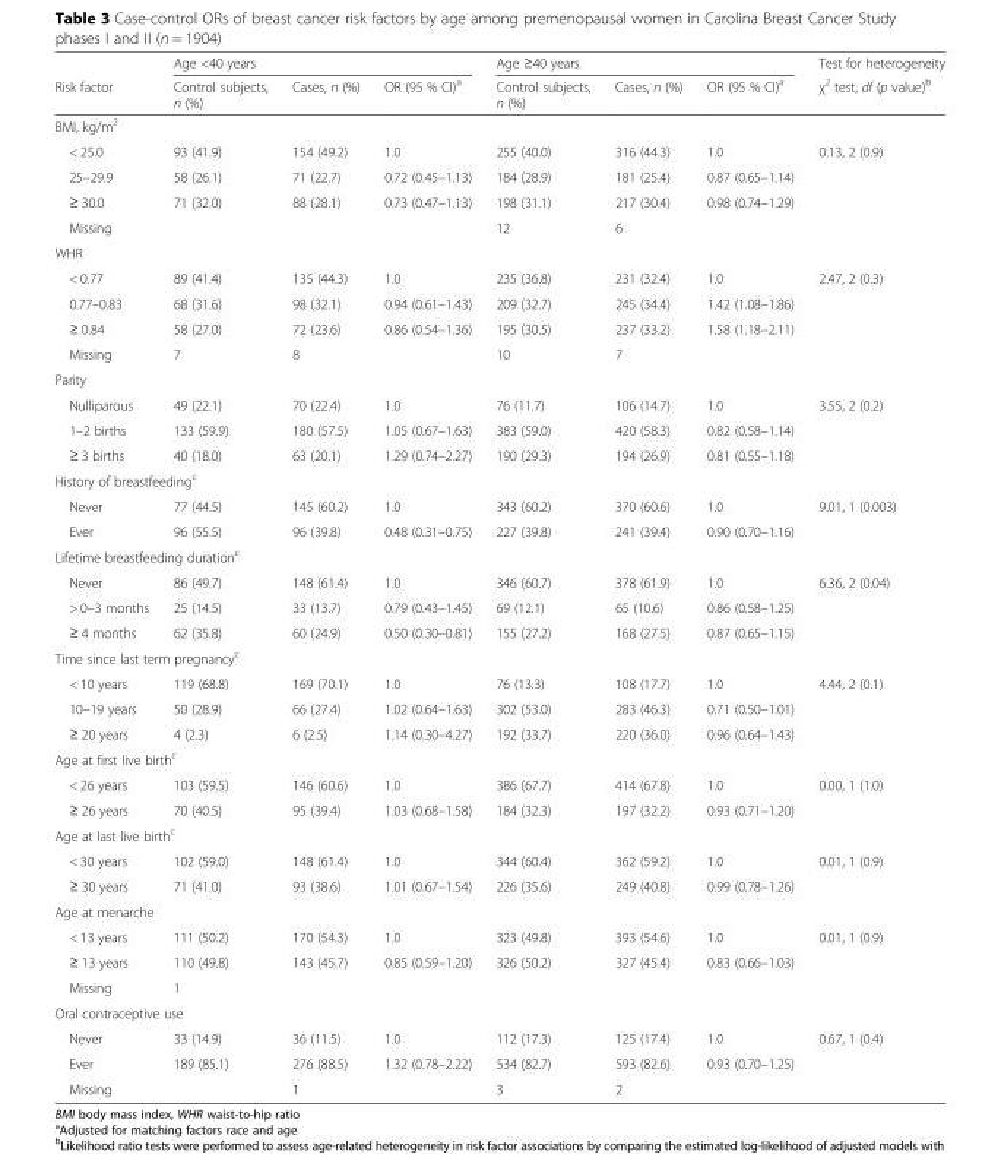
<table><thead><tr><td rowspan="2">Risk factor</td><td colspan="3">Age &lt;40 years</td><td colspan="3">Age ≥40 years</td><td rowspan="2">Test for heterogeneity χ<sup>2</sup> test, df (p value)<sup>b</sup></td></tr><tr><td>Control subjects, n (%)</td><td>Cases, n (%)</td><td>OR (95 % CI)<sup>a</sup></td><td>Control subjects, n (%)</td><td>Cases, n (%)</td><td>OR (95 % CI)<sup>a</sup></td></tr></thead><tbody><tr><td colspan="8">BMI, kg/m<sup>2</sup></td></tr><tr><td>&lt; 25.0</td><td>93 (41.9)</td><td>154 (49.2)</td><td>1.0</td><td>255 (40.0)</td><td>316 (44.3)</td><td>1.0</td><td>0.13, 2 (0.9)</td></tr><tr><td>25–29.9</td><td>58 (26.1)</td><td>71 (22.7)</td><td>0.72 (0.45–1.13)</td><td>184 (28.9)</td><td>181 (25.4)</td><td>0.87 (0.65–1.14)</td><td></td></tr><tr><td>≥ 30.0</td><td>71 (32.0)</td><td>88 (28.1)</td><td>0.73 (0.47–1.13)</td><td>198 (31.1)</td><td>217 (30.4)</td><td>0.98 (0.74–1.29)</td><td></td></tr><tr><td>Missing</td><td></td><td></td><td></td><td>12</td><td>6</td><td></td><td></td></tr><tr><td colspan="8">WHR</td></tr><tr><td>&lt; 0.77</td><td>89 (41.4)</td><td>135 (44.3)</td><td>1.0</td><td>235 (36.8)</td><td>231 (32.4)</td><td>1.0</td><td>2.47, 2 (0.3)</td></tr><tr><td>0.77–0.83</td><td>68 (31.6)</td><td>98 (32.1)</td><td>0.94 (0.61–1.43)</td><td>209 (32.7)</td><td>245 (34.4)</td><td>1.42 (1.08–1.86)</td><td></td></tr><tr><td>≥ 0.84</td><td>58 (27.0)</td><td>72 (23.6)</td><td>0.86 (0.54–1.36)</td><td>195 (30.5)</td><td>237 (33.2)</td><td>1.58 (1.18–2.11)</td><td></td></tr><tr><td>Missing</td><td>7</td><td>8</td><td></td><td>10</td><td>7</td><td></td><td></td></tr><tr><td colspan="8">Parity</td></tr><tr><td>Nulliparous</td><td>49 (22.1)</td><td>70 (22.4)</td><td>1.0</td><td>76 (11.7)</td><td>106 (14.7)</td><td>1.0</td><td>3.55, 2 (0.2)</td></tr><tr><td>1–2 births</td><td>133 (59.9)</td><td>180 (57.5)</td><td>1.05 (0.67–1.63)</td><td>383 (59.0)</td><td>420 (58.3)</td><td>0.82 (0.58–1.14)</td><td></td></tr><tr><td>≥ 3 births</td><td>40 (18.0)</td><td>63 (20.1)</td><td>1.29 (0.74–2.27)</td><td>190 (29.3)</td><td>194 (26.9)</td><td>0.81 (0.55–1.18)</td><td></td></tr><tr><td colspan="8">History of breastfeeding<sup>c</sup></td></tr><tr><td>Never</td><td>77 (44.5)</td><td>145 (60.2)</td><td>1.0</td><td>343 (60.2)</td><td>370 (60.6)</td><td>1.0</td><td>9.01, 1 (0.003)</td></tr><tr><td>Ever</td><td>96 (55.5)</td><td>96 (39.8)</td><td>0.48 (0.31–0.75)</td><td>227 (39.8)</td><td>241 (39.4)</td><td>0.90 (0.70–1.16)</td><td></td></tr><tr><td colspan="8">Lifetime breastfeeding duration<sup>c</sup></td></tr><tr><td>Never</td><td>86 (49.7)</td><td>148 (61.4)</td><td>1.0</td><td>346 (60.7)</td><td>378 (61.9)</td><td>1.0</td><td>6.36, 2 (0.04)</td></tr><tr><td>&gt; 0–3 months</td><td>25 (14.5)</td><td>33 (13.7)</td><td>0.79 (0.43–1.45)</td><td>69 (12.1)</td><td>65 (10.6)</td><td>0.86 (0.58–1.25)</td><td></td></tr><tr><td>≥ 4 months</td><td>62 (35.8)</td><td>60 (24.9)</td><td>0.50 (0.30–0.81)</td><td>155 (27.2)</td><td>168 (27.5)</td><td>0.87 (0.65–1.15)</td><td></td></tr><tr><td colspan="8">Time since last term pregnancy<sup>c</sup></td></tr><tr><td>&lt; 10 years</td><td>119 (68.8)</td><td>169 (70.1)</td><td>1.0</td><td>76 (13.3)</td><td>108 (17.7)</td><td>1.0</td><td>4.44, 2 (0.1)</td></tr><tr><td>10–19 years</td><td>50 (28.9)</td><td>66 (27.4)</td><td>1.02 (0.64–1.63)</td><td>302 (53.0)</td><td>283 (46.3)</td><td>0.71 (0.50–1.01)</td><td></td></tr><tr><td>≥ 20 years</td><td>4 (2.3)</td><td>6 (2.5)</td><td>1.14 (0.30–4.27)</td><td>192 (33.7)</td><td>220 (36.0)</td><td>0.96 (0.64–1.43)</td><td></td></tr><tr><td colspan="8">Age at first live birth<sup>c</sup></td></tr><tr><td>&lt; 26 years</td><td>103 (59.5)</td><td>146 (60.6)</td><td>1.0</td><td>386 (67.7)</td><td>414 (67.8)</td><td>1.0</td><td>0.00, 1 (1.0)</td></tr><tr><td>≥ 26 years</td><td>70 (40.5)</td><td>95 (39.4)</td><td>1.03 (0.68–1.58)</td><td>184 (32.3)</td><td>197 (32.2)</td><td>0.93 (0.71–1.20)</td><td></td></tr><tr><td colspan="8">Age at last live birth<sup>c</sup></td></tr><tr><td>&lt; 30 years</td><td>102 (59.0)</td><td>148 (61.4)</td><td>1.0</td><td>344 (60.4)</td><td>362 (59.2)</td><td>1.0</td><td>0.01, 1 (0.9)</td></tr><tr><td>≥ 30 years</td><td>71 (41.0)</td><td>93 (38.6)</td><td>1.01 (0.67–1.54)</td><td>226 (35.6)</td><td>249 (40.8)</td><td>0.99 (0.78–1.26)</td><td></td></tr><tr><td colspan="8">Age at menarche</td></tr><tr><td>&lt; 13 years</td><td>111 (50.2)</td><td>170 (54.3)</td><td>1.0</td><td>323 (49.8)</td><td>393 (54.6)</td><td>1.0</td><td>0.01, 1 (0.9)</td></tr><tr><td>≥ 13 years</td><td>110 (49.8)</td><td>143 (45.7)</td><td>0.85 (0.59–1.20)</td><td>326 (50.2)</td><td>327 (45.4)</td><td>0.83 (0.66–1.03)</td><td></td></tr><tr><td>Missing</td><td>1</td><td></td><td></td><td></td><td></td><td></td><td></td></tr><tr><td colspan="8">Oral contraceptive use</td></tr><tr><td>Never</td><td>33 (14.9)</td><td>36 (11.5)</td><td>1.0</td><td>112 (17.3)</td><td>125 (17.4)</td><td>1.0</td><td>0.67, 1 (0.4)</td></tr><tr><td>Ever</td><td>189 (85.1)</td><td>276 (88.5)</td><td>1.32 (0.78–2.22)</td><td>534 (82.7)</td><td>593 (82.6)</td><td>0.93 (0.70–1.25)</td><td></td></tr><tr><td>Missing</td><td></td><td>1</td><td></td><td>3</td><td>2</td><td></td><td></td></tr></tbody></table>